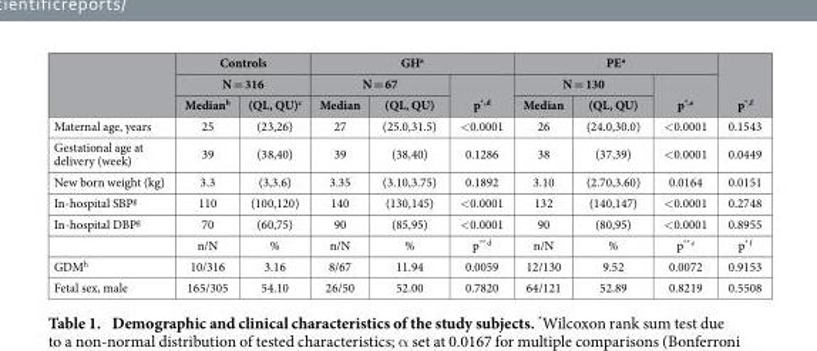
<table><thead><tr><td rowspan="3"></td><td rowspan="2" colspan="2">Controls N = 316</td><td colspan="3">GH<sup>a</sup></td><td colspan="3">PE<sup>a</sup></td><td rowspan="3">p*,<sup>f</sup></td></tr><tr><td colspan="2">N = 67</td><td rowspan="2">p*,<sup>d</sup></td><td colspan="2">N = 130</td><td rowspan="2">p*,<sup>e</sup></td></tr><tr><td>Median<sup>b</sup></td><td>(QL, QU)<sup>c</sup></td><td>Median</td><td>(QL, QU)</td><td>Median</td><td>(QL, QU)</td></tr></thead><tbody><tr><td>Maternal age, years</td><td>25</td><td>(23,26)</td><td>27</td><td>(25.0,31.5)</td><td>&lt; 0.0001</td><td>26</td><td>(24.0,30.0)</td><td>&lt; 0.0001</td><td>0.1543</td></tr><tr><td>Gestational age at delivery (week)</td><td>39</td><td>(38,40)</td><td>39</td><td>(38,40)</td><td>0.1286</td><td>38</td><td>(37,39)</td><td>&lt; 0.0001</td><td>0.0449</td></tr><tr><td>New born weight (kg)</td><td>3.3</td><td>(3,3.6)</td><td>3.35</td><td>(3.10,3.75)</td><td>0.1892</td><td>3.10</td><td>(2.70,3.60)</td><td>0.0164</td><td>0.0151</td></tr><tr><td>In-hospital SBP<sup>g</sup></td><td>110</td><td>(100,120)</td><td>140</td><td>(130,145)</td><td>&lt; 0.0001</td><td>132</td><td>(140,147)</td><td>&lt; 0.0001</td><td>0.2748</td></tr><tr><td rowspan="2">In-hospital DBP<sup>g</sup></td><td>70</td><td>(60,75)</td><td>90</td><td>(85,95)</td><td>&lt; 0.0001</td><td>90</td><td>(80,95)</td><td>&lt; 0.0001</td><td>0.8955</td></tr><tr><td>n/N</td><td>%</td><td>n/N</td><td>%</td><td>p** d</td><td>n/N</td><td>%</td><td>p** e</td><td>p* f</td></tr><tr><td>GDM<sup>h</sup></td><td>10/316</td><td>3.16</td><td>8/67</td><td>11.94</td><td>0.0059</td><td>12/130</td><td>9.52</td><td>0.0072</td><td>0.9153</td></tr><tr><td>Fetal sex, male</td><td>165/305</td><td>54.10</td><td>26/50</td><td>52.00</td><td>0.7820</td><td>64/121</td><td>52.89</td><td>0.8219</td><td>0.5508</td></tr></tbody></table>